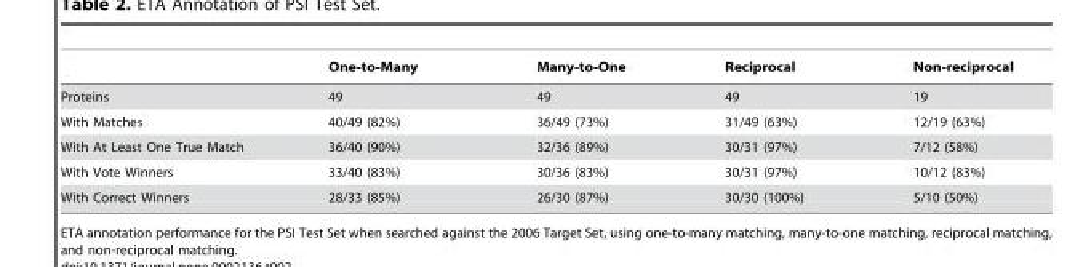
<table><thead><tr><td></td><td>One-to-Many</td><td>Many-to-One</td><td>Reciprocal</td><td>Non-reciprocal</td></tr></thead><tbody><tr><td>Proteins</td><td>49</td><td>49</td><td>49</td><td>19</td></tr><tr><td>With Matches</td><td>40/49 (82%)</td><td>36/49 (73%)</td><td>31/49 (63%)</td><td>12/19 (63%)</td></tr><tr><td>With At Least One True Match</td><td>36/40 (90%)</td><td>32/36 (89%)</td><td>30/31 (97%)</td><td>7/12 (58%)</td></tr><tr><td>With Vote Winners</td><td>33/40 (83%)</td><td>30/36 (83%)</td><td>30/31 (97%)</td><td>10/12 (83%)</td></tr><tr><td>With Correct Winners</td><td>28/33 (85%)</td><td>26/30 (87%)</td><td>30/30 (100%)</td><td>5/10 (50%)</td></tr></tbody></table>